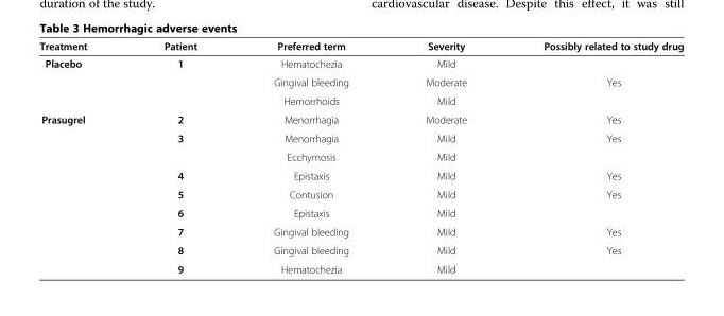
<table><thead><tr><td>Treatment</td><td>Patient</td><td>Preferred term</td><td>Severity</td><td>Possibly related to study drug</td></tr></thead><tbody><tr><td rowspan="3">Placebo</td><td>1</td><td>Hematochezia</td><td>Mild</td><td></td></tr><tr><td></td><td>Gingival bleeding</td><td>Moderate</td><td>Yes</td></tr><tr><td></td><td>Hemorrhoids</td><td>Mild</td><td></td></tr><tr><td rowspan="9">Prasugrel</td><td>2</td><td>Menorrhagia</td><td>Moderate</td><td>Yes</td></tr><tr><td>3</td><td>Menorrhagia</td><td>Mild</td><td>Yes</td></tr><tr><td></td><td>Ecchymosis</td><td>Mild</td><td></td></tr><tr><td>4</td><td>Epistaxis</td><td>Mild</td><td>Yes</td></tr><tr><td>5</td><td>Contusion</td><td>Mild</td><td>Yes</td></tr><tr><td>6</td><td>Epistaxis</td><td>Mild</td><td></td></tr><tr><td>7</td><td>Gingival bleeding</td><td>Mild</td><td>Yes</td></tr><tr><td>8</td><td>Gingival bleeding</td><td>Mild</td><td>Yes</td></tr><tr><td>9</td><td>Hematochezia</td><td>Mild</td><td></td></tr></tbody></table>